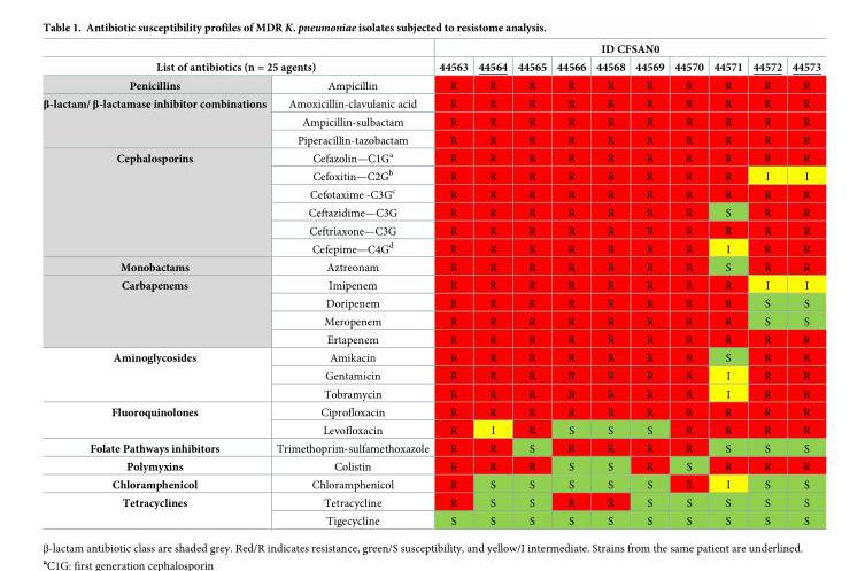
<table><thead><tr><td></td><td></td><td colspan="10">ID CFSAN0</td></tr><tr><td colspan="2">List of antibiotics (n = 25 agents)</td><td>44563</td><td>44564</td><td>44565</td><td>44566</td><td>44568</td><td>44569</td><td>44570</td><td>44571</td><td>44572</td><td>44573</td></tr></thead><tbody><tr><td>Penicillins</td><td>Ampicillin</td><td>R</td><td>R</td><td>R</td><td>R</td><td>R</td><td>R</td><td>R</td><td>R</td><td>R</td><td>R</td></tr><tr><td rowspan="3">β-lactam/ β-lactamase inhibitor combinations</td><td>Amoxicillin-clavulanic acid</td><td>R</td><td>R</td><td>R</td><td>R</td><td>R</td><td>R</td><td>R</td><td>R</td><td>R</td><td>R</td></tr><tr><td>Ampicillin-sulbactam</td><td>R</td><td>R</td><td>R</td><td>R</td><td>R</td><td>R</td><td>R</td><td>R</td><td>R</td><td>R</td></tr><tr><td>Piperacillin-tazobactam</td><td>R</td><td>R</td><td>R</td><td>R</td><td>R</td><td>R</td><td>R</td><td>R</td><td>R</td><td>R</td></tr><tr><td rowspan="6">Cephalosporins</td><td>Cefazolin—C1G<sup>a</sup></td><td>R</td><td>R</td><td>R</td><td>R</td><td>R</td><td>R</td><td>R</td><td>R</td><td>R</td><td>R</td></tr><tr><td>Cefoxitin—C2G<sup>b</sup></td><td>R</td><td>R</td><td>R</td><td>R</td><td>R</td><td>R</td><td>R</td><td>R</td><td>I</td><td>I</td></tr><tr><td>Cefotaxime -C3G<sup>c</sup></td><td>R</td><td>R</td><td>R</td><td>R</td><td>R</td><td>R</td><td>R</td><td>R</td><td>R</td><td>R</td></tr><tr><td>Ceftazidime—C3G</td><td>R</td><td>R</td><td>R</td><td>R</td><td>R</td><td>R</td><td>R</td><td>S</td><td>R</td><td>R</td></tr><tr><td>Ceftriaxone—C3G</td><td>R</td><td>R</td><td>R</td><td>R</td><td>R</td><td>R</td><td>R</td><td>R</td><td>R</td><td>R</td></tr><tr><td>Cefepime—C4G<sup>d</sup></td><td>R</td><td>R</td><td>R</td><td>R</td><td>R</td><td>R</td><td>R</td><td>I</td><td>R</td><td>R</td></tr><tr><td>Monobactams</td><td>Aztreonam</td><td>R</td><td>R</td><td>R</td><td>R</td><td>R</td><td>R</td><td>R</td><td>S</td><td>R</td><td>R</td></tr><tr><td rowspan="4">Carbapenems</td><td>Imipenem</td><td>R</td><td>R</td><td>R</td><td>R</td><td>R</td><td>R</td><td>R</td><td>R</td><td>I</td><td>I</td></tr><tr><td>Doripenem</td><td>R</td><td>R</td><td>R</td><td>R</td><td>R</td><td>R</td><td>R</td><td>R</td><td>S</td><td>S</td></tr><tr><td>Meropenem</td><td>R</td><td>R</td><td>R</td><td>R</td><td>R</td><td>R</td><td>R</td><td>R</td><td>S</td><td>S</td></tr><tr><td>Ertapenem</td><td>R</td><td>R</td><td>R</td><td>R</td><td>R</td><td>R</td><td>R</td><td>R</td><td>R</td><td>R</td></tr><tr><td rowspan="3">Aminoglycosides</td><td>Amikacin</td><td>R</td><td>R</td><td>R</td><td>R</td><td>R</td><td>R</td><td>R</td><td>S</td><td>R</td><td>R</td></tr><tr><td>Gentamicin</td><td>R</td><td>R</td><td>R</td><td>R</td><td>R</td><td>R</td><td>R</td><td>I</td><td>R</td><td>R</td></tr><tr><td>Tobramycin</td><td>R</td><td>R</td><td>R</td><td>R</td><td>R</td><td>R</td><td>R</td><td>I</td><td>R</td><td>R</td></tr><tr><td rowspan="2">Fluoroquinolones</td><td>Ciprofloxacin</td><td>R</td><td>R</td><td>R</td><td>R</td><td>R</td><td>R</td><td>R</td><td>R</td><td>R</td><td>R</td></tr><tr><td>Levofloxacin</td><td>R</td><td>I</td><td>R</td><td>S</td><td>S</td><td>S</td><td>R</td><td>R</td><td>R</td><td>R</td></tr><tr><td>Folate Pathways inhibitors</td><td>Trimethoprim-sulfamethoxazole</td><td>R</td><td>R</td><td>S</td><td>R</td><td>R</td><td>R</td><td>R</td><td>S</td><td>S</td><td>S</td></tr><tr><td>Polymyxins</td><td>Colistin</td><td>R</td><td>R</td><td>R</td><td>S</td><td>S</td><td>R</td><td>S</td><td>R</td><td>R</td><td>R</td></tr><tr><td>Chloramphenicol</td><td>Chloramphenicol</td><td>R</td><td>S</td><td>S</td><td>S</td><td>S</td><td>S</td><td>R</td><td>I</td><td>S</td><td>S</td></tr><tr><td rowspan="2">Tetracyclines</td><td>Tetracycline</td><td>R</td><td>S</td><td>S</td><td>R</td><td>R</td><td>S</td><td>S</td><td>S</td><td>S</td><td>S</td></tr><tr><td>Tigecycline</td><td>S</td><td>S</td><td>S</td><td>S</td><td>S</td><td>S</td><td>S</td><td>S</td><td>S</td><td>S</td></tr></tbody></table>